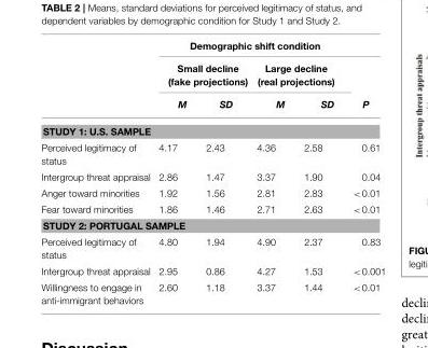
<table><thead><tr><td rowspan="3"></td><td colspan="4">Demographic shift condition</td><td rowspan="3">P</td></tr><tr><td colspan="2">Small decline (fake projections)</td><td colspan="2">Large decline (real projections)</td></tr><tr><td>M</td><td>SD</td><td>M</td><td>SD</td></tr></thead><tbody><tr><td colspan="6">STUDY 1: U.S. SAMPLE</td></tr><tr><td>Perceived legitimacy of status</td><td>4.17</td><td>2.43</td><td>4.36</td><td>2.58</td><td>0.61</td></tr><tr><td>Intergroup threat appraisal</td><td>2.86</td><td>1.47</td><td>3.37</td><td>1.90</td><td>0.04</td></tr><tr><td>Anger toward minorities</td><td>1.92</td><td>1.56</td><td>2.81</td><td>2.83</td><td>&lt;0.01</td></tr><tr><td>Fear toward minorities</td><td>1.86</td><td>1.46</td><td>2.71</td><td>2.63</td><td>&lt;0.01</td></tr><tr><td colspan="6">STUDY 2: PORTUGAL SAMPLE</td></tr><tr><td>Perceived legitimacy of status</td><td>4.80</td><td>1.94</td><td>4.90</td><td>2.37</td><td>0.83</td></tr><tr><td>Intergroup threat appraisal</td><td>2.95</td><td>0.86</td><td>4.27</td><td>1.53</td><td>&lt;0.001</td></tr><tr><td>Willingness to engage in anti-immigrant behaviors</td><td>2.60</td><td>1.18</td><td>3.37</td><td>1.44</td><td>&lt;0.01</td></tr></tbody></table>